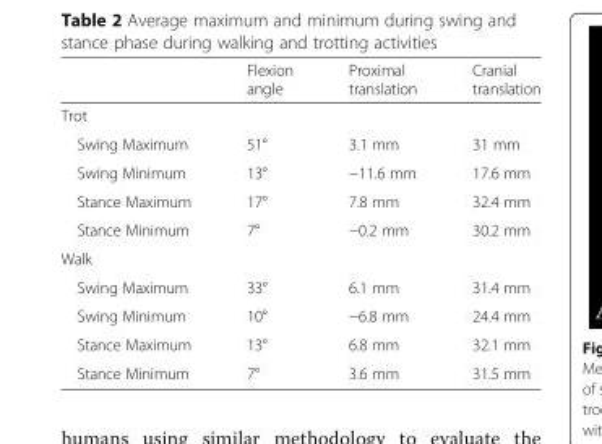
<table><thead><tr><td></td><td>Flexion angle</td><td>Proximal translation</td><td>Cranial translation</td></tr></thead><tbody><tr><td colspan="4">Trot</td></tr><tr><td>Swing Maximum</td><td>51°</td><td>3.1 mm</td><td>31 mm</td></tr><tr><td>Swing Minimum</td><td>13°</td><td>−11.6 mm</td><td>17.6 mm</td></tr><tr><td>Stance Maximum</td><td>17°</td><td>7.8 mm</td><td>32.4 mm</td></tr><tr><td>Stance Minimum</td><td>7°</td><td>−0.2 mm</td><td>30.2 mm</td></tr><tr><td colspan="4">Walk</td></tr><tr><td>Swing Maximum</td><td>33°</td><td>6.1 mm</td><td>31.4 mm</td></tr><tr><td>Swing Minimum</td><td>10°</td><td>−6.8 mm</td><td>24.4 mm</td></tr><tr><td>Stance Maximum</td><td>13°</td><td>6.8 mm</td><td>32.1 mm</td></tr><tr><td>Stance Minimum</td><td>7°</td><td>3.6 mm</td><td>31.5 mm</td></tr></tbody></table>